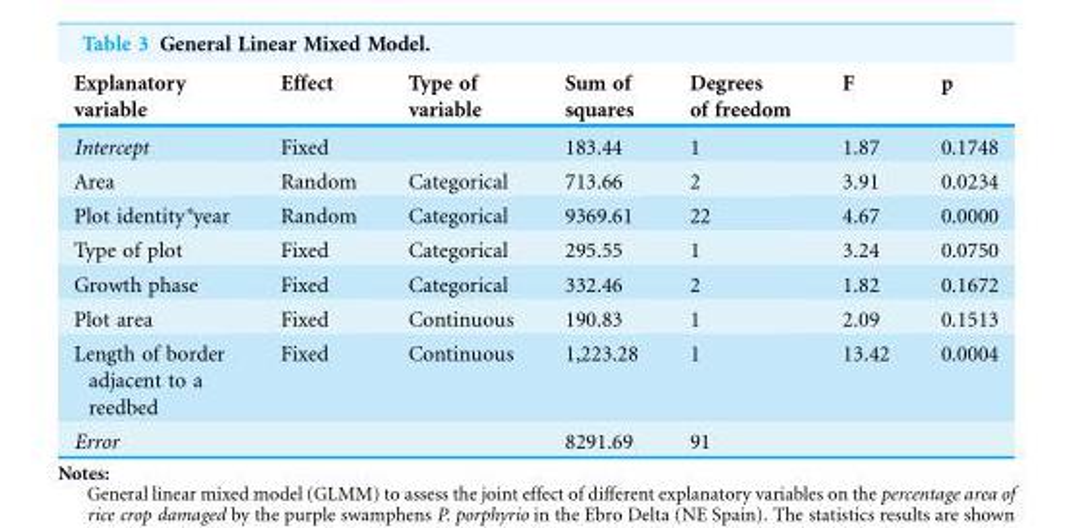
<table><thead><tr><td>Explanatory variable</td><td>Effect</td><td>Type of variable</td><td>Sum of squares</td><td>Degrees of freedom</td><td>F</td><td>p</td></tr></thead><tbody><tr><td>Intercept</td><td>Fixed</td><td></td><td>183.44</td><td>1</td><td>1.87</td><td>0.1748</td></tr><tr><td>Area</td><td>Random</td><td>Categorical</td><td>713.66</td><td>2</td><td>3.91</td><td>0.0234</td></tr><tr><td>Plot identity*year</td><td>Random</td><td>Categorical</td><td>9369.61</td><td>22</td><td>4.67</td><td>0.0000</td></tr><tr><td>Type of plot</td><td>Fixed</td><td>Categorical</td><td>295.55</td><td>1</td><td>3.24</td><td>0.0750</td></tr><tr><td>Growth phase</td><td>Fixed</td><td>Categorical</td><td>332.46</td><td>2</td><td>1.82</td><td>0.1672</td></tr><tr><td>Plot area</td><td>Fixed</td><td>Continuous</td><td>190.83</td><td>1</td><td>2.09</td><td>0.1513</td></tr><tr><td>Length of border adjacent to a reedbed</td><td>Fixed</td><td>Continuous</td><td>1,223.28</td><td>1</td><td>13.42</td><td>0.0004</td></tr><tr><td>Error</td><td></td><td></td><td>8291.69</td><td>91</td><td></td><td></td></tr></tbody></table>